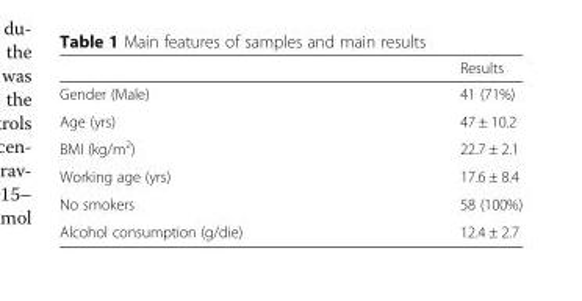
<table><thead><tr><td></td><td>Results</td></tr></thead><tbody><tr><td>Gender (Male)</td><td>41 (71%)</td></tr><tr><td>Age (yrs)</td><td>47 ± 10.2</td></tr><tr><td>BMI (kg/m<sup>2</sup>)</td><td>22.7 ± 2.1</td></tr><tr><td>Working age (yrs)</td><td>17.6 ± 8.4</td></tr><tr><td>No smokers</td><td>58 (100%)</td></tr><tr><td>Alcohol consumption (g/die)</td><td>12.4 ± 2.7</td></tr></tbody></table>